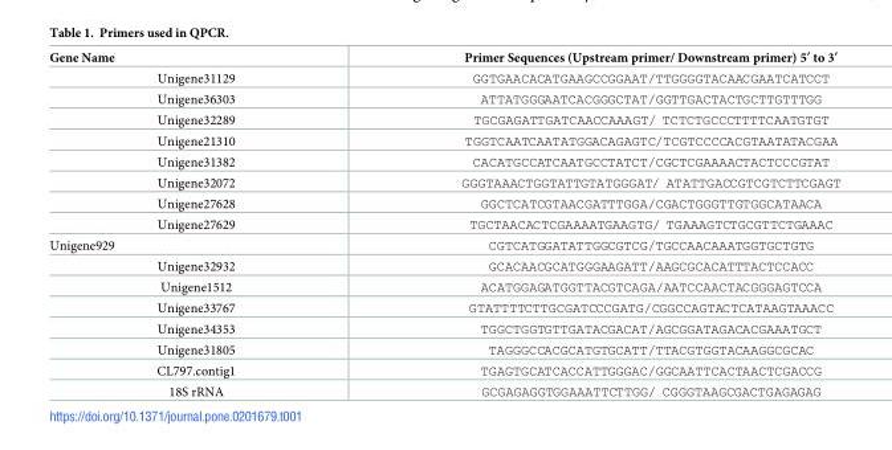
<table><thead><tr><td>Gene Name</td><td>Primer Sequences (Upstream primer/ Downstream primer) 5ʹ to 3ʹ</td></tr></thead><tbody><tr><td>Unigene31129</td><td>GGTGAACACATGAAGCCGGAAT/TTGGGGTACAACGAATCATCCT</td></tr><tr><td>Unigene36303</td><td>ATTATGGGAATCACGGGCTAT/GGTTGACTACTGCTTGTTTGG</td></tr><tr><td>Unigene32289</td><td>TGCGAGATTGATCAACCAAAGT/ TCTCTGCCCTTTTCAATGTGT</td></tr><tr><td>Unigene21310</td><td>TGGTCAATCAATATGGACAGAGTC/TCGTCCCCACGTAATATACGAA</td></tr><tr><td>Unigene31382</td><td>CACATGCCATCAATGCCTATCT/CGCTCGAAAACTACTCCCGTAT</td></tr><tr><td>Unigene32072</td><td>GGGTAAACTGGTATTGTATGGGAT/ ATATTGACCGTCGTCTTCGAGT</td></tr><tr><td>Unigene27628</td><td>GGCTCATCGTAACGATTTGGA/CGACTGGGTTGTGGCATAACA</td></tr><tr><td>Unigene27629</td><td>TGCTAACACTCGAAAATGAAGTG/ TGAAAGTCTGCGTTCTGAAAC</td></tr><tr><td>Unigene929</td><td>CGTCATGGATATTGGCGTCG/TGCCAACAAATGGTGCTGTG</td></tr><tr><td>Unigene32932</td><td>GCACAACGCATGGGAAGATT/AAGCGCACATTTACTCCACC</td></tr><tr><td>Unigene1512</td><td>ACATGGAGATGGTTACGTCAGA/AATCCAACTACGGGAGTCCA</td></tr><tr><td>Unigene33767</td><td>GTATTTTCTTGCGATCCCGATG/CGGCCAGTACTCATAAGTAAACC</td></tr><tr><td>Unigene34353</td><td>TGGCTGGTGTTGATACGACAT/AGCGGATAGACACGAAATGCT</td></tr><tr><td>Unigene31805</td><td>TAGGGCCACGCATGTGCATT/TTACGTGGTACAAGGCGCAC</td></tr><tr><td>CL797.contig1</td><td>TGAGTGCATCACCATTGGGAC/GGCAATTCACTAACTCGACCG</td></tr><tr><td>18S rRNA</td><td>GCGAGAGGTGGAAATTCTTGG/ CGGGTAAGCGACTGAGAGAG</td></tr></tbody></table>